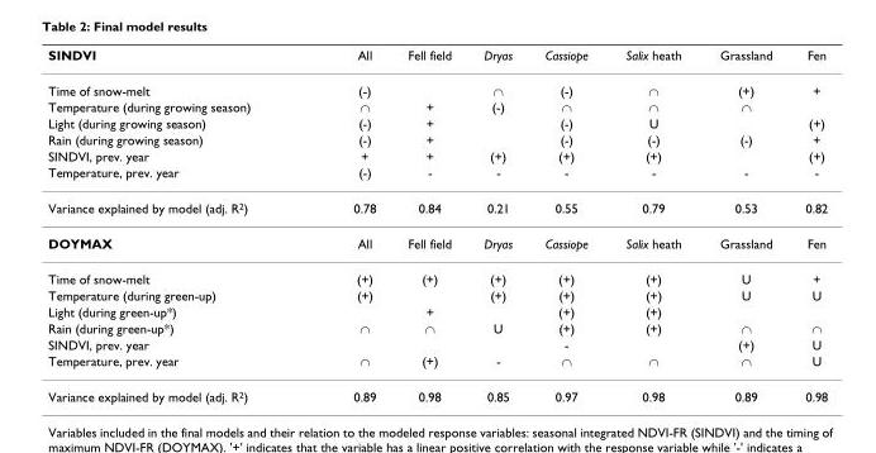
<table><thead><tr><td>SINDVI</td><td>All</td><td>Fell field</td><td>Dryas</td><td>Cassiope</td><td>Salix heath</td><td>Grassland</td><td>Fen</td></tr></thead><tbody><tr><td>Time of snow-melt</td><td>(-)</td><td></td><td>∩</td><td>(-)</td><td>∩</td><td>(+)</td><td>+</td></tr><tr><td>Temperature (during growing season)</td><td>∩</td><td>+</td><td>(-)</td><td>∩</td><td>∩</td><td>∩</td><td></td></tr><tr><td>Light (during growing season)</td><td>(-)</td><td>+</td><td></td><td>(-)</td><td>U</td><td></td><td>(+)</td></tr><tr><td>Rain (during growing season)</td><td>(-)</td><td>+</td><td></td><td>(-)</td><td>(-)</td><td>(-)</td><td>+</td></tr><tr><td>SINDVI, prev. year</td><td>+</td><td>+</td><td>(+)</td><td>(+)</td><td>(+)</td><td></td><td>(+)</td></tr><tr><td>Temperature, prev. year</td><td>(-)</td><td>-</td><td>-</td><td>-</td><td>-</td><td>-</td><td>-</td></tr><tr><td>Variance explained by model (adj. R<sup>2</sup>)</td><td>0.78</td><td>0.84</td><td>0.21</td><td>0.55</td><td>0.79</td><td>0.53</td><td>0.82</td></tr><tr><td>DOYMAX</td><td>All</td><td>Fell field</td><td>Dryas</td><td>Cassiope</td><td>Salix heath</td><td>Grassland</td><td>Fen</td></tr><tr><td>Time of snow-melt</td><td>(+)</td><td>(+)</td><td>(+)</td><td>(+)</td><td>(+)</td><td>U</td><td>+</td></tr><tr><td>Temperature (during green-up)</td><td>(+)</td><td></td><td>(+)</td><td>(+)</td><td>(+)</td><td>U</td><td>U</td></tr><tr><td>Light (during green-up*)</td><td></td><td>+</td><td></td><td>(+)</td><td>(+)</td><td></td><td></td></tr><tr><td>Rain (during green-up*)</td><td>∩</td><td>∩</td><td>U</td><td>(+)</td><td>(+)</td><td>∩</td><td>∩</td></tr><tr><td>SINDVI, prev. year</td><td></td><td></td><td></td><td>-</td><td></td><td>(+)</td><td>U</td></tr><tr><td>Temperature, prev. year</td><td>∩</td><td>(+)</td><td>-</td><td>∩</td><td>∩</td><td>∩</td><td>U</td></tr><tr><td>Variance explained by model (adj. R<sup>2</sup>)</td><td>0.89</td><td>0.98</td><td>0.85</td><td>0.97</td><td>0.98</td><td>0.89</td><td>0.98</td></tr></tbody></table>